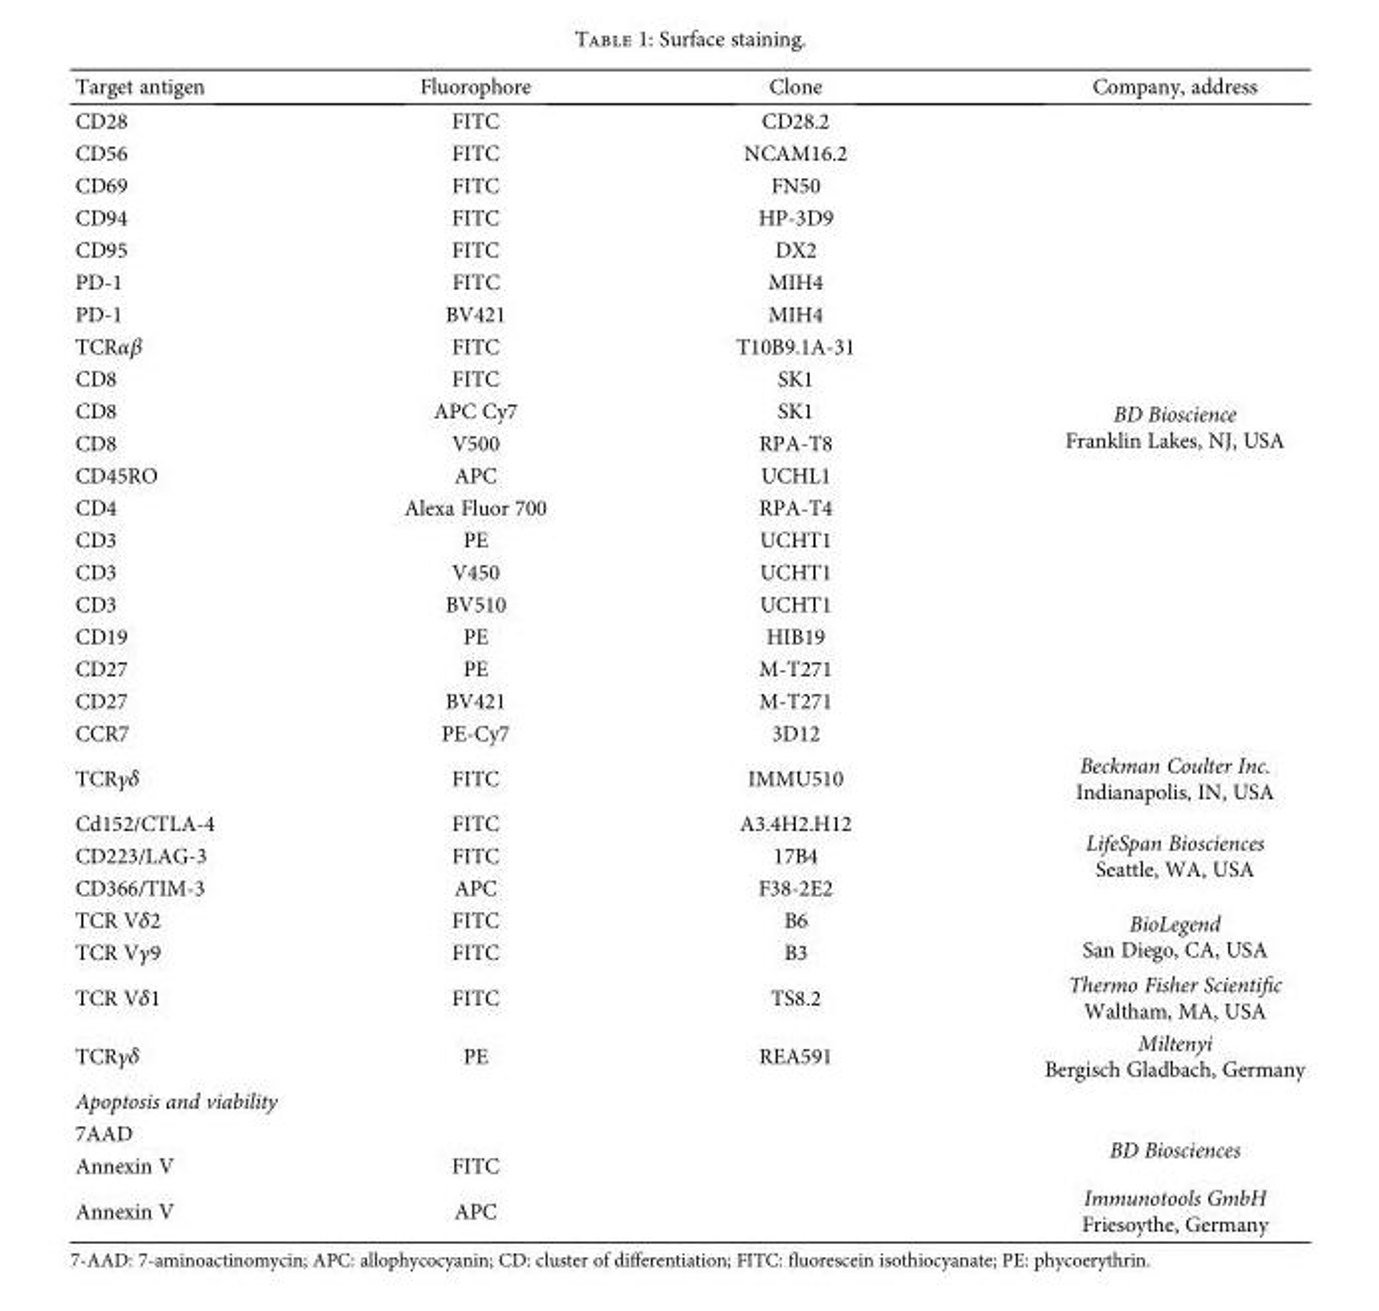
<table><thead><tr><td>Target antigen</td><td>Fluorophore</td><td>Clone</td><td>Company, address</td></tr></thead><tbody><tr><td>CD28</td><td>FITC</td><td>CD28.2</td><td rowspan="20">BD Bioscience Franklin Lakes, NJ, USA</td></tr><tr><td>CD56</td><td>FITC</td><td>NCAM16.2</td></tr><tr><td>CD69</td><td>FITC</td><td>FN50</td></tr><tr><td>CD94</td><td>FITC</td><td>HP-3D9</td></tr><tr><td>CD95</td><td>FITC</td><td>DX2</td></tr><tr><td>PD-1</td><td>FITC</td><td>MIH4</td></tr><tr><td>PD-1</td><td>BV421</td><td>MIH4</td></tr><tr><td>TCRαβ</td><td>FITC</td><td>T10B9.1A-31</td></tr><tr><td>CD8</td><td>FITC</td><td>SK1</td></tr><tr><td>CD8</td><td>APC Cy7</td><td>SK1</td></tr><tr><td>CD8</td><td>V500</td><td>RPA-T8</td></tr><tr><td>CD45RO</td><td>APC</td><td>UCHL1</td></tr><tr><td>CD4</td><td>Alexa Fluor 700</td><td>RPA-T4</td></tr><tr><td>CD3</td><td>PE</td><td>UCHT1</td></tr><tr><td>CD3</td><td>V450</td><td>UCHT1</td></tr><tr><td>CD3</td><td>BV510</td><td>UCHT1</td></tr><tr><td>CD19</td><td>PE</td><td>HIB19</td></tr><tr><td>CD27</td><td>PE</td><td>M-T271</td></tr><tr><td>CD27</td><td>BV421</td><td>M-T271</td></tr><tr><td>CCR7</td><td>PE-Cy7</td><td>3D12</td></tr><tr><td>TCRγδ</td><td>FITC</td><td>IMMU510</td><td>Beckman Coulter Inc. Indianapolis, IN, USA</td></tr><tr><td>Cd152/CTLA-4</td><td>FITC</td><td>A3.4H2.H12</td><td rowspan="3">LifeSpan Biosciences Seattle, WA, USA</td></tr><tr><td>CD223/LAG-3</td><td>FITC</td><td>17B4</td></tr><tr><td>CD366/TIM-3</td><td>APC</td><td>F38-2E2</td></tr><tr><td>TCR Vδ2</td><td>FITC</td><td>B6</td><td rowspan="2">BioLegend San Diego, CA, USA</td></tr><tr><td>TCR Vγ9</td><td>FITC</td><td>B3</td></tr><tr><td>TCR Vδ1</td><td>FITC</td><td>TS8.2</td><td>Thermo Fisher Scientific Waltham, MA, USA</td></tr><tr><td>TCRγδ</td><td>PE</td><td>REA591</td><td>Miltenyi Bergisch Gladbach, Germany</td></tr><tr><td colspan="4">Apoptosis and viability</td></tr><tr><td colspan="3">7AAD</td><td rowspan="2">BD Biosciences</td></tr><tr><td>Annexin V</td><td>FITC</td><td></td></tr><tr><td>Annexin V</td><td>APC</td><td></td><td>Immunotools GmbH Friesoythe, Germany</td></tr></tbody></table>